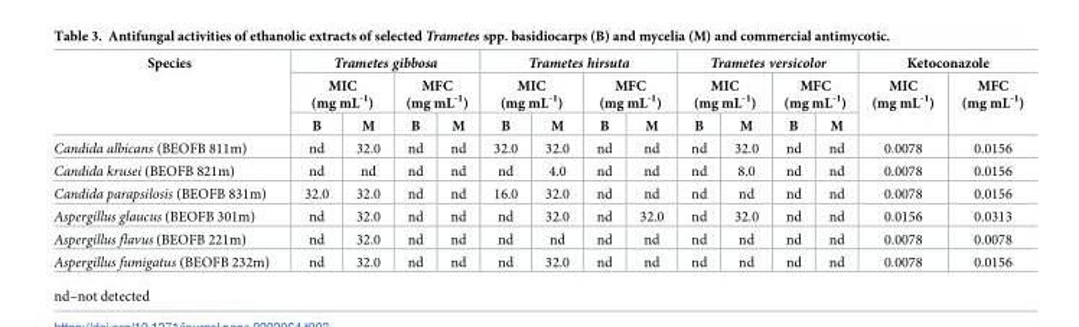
<table><thead><tr><td rowspan="3">Species</td><td colspan="4">Trametes gibbosa</td><td colspan="4">Trametes hirsuta</td><td colspan="4">Trametes versicolor</td><td colspan="2">Ketoconazole</td></tr><tr><td colspan="2">MIC (mg mL<sup>-1</sup>)</td><td colspan="2">MFC (mg mL<sup>-1</sup>)</td><td colspan="2">MIC (mg mL<sup>-1</sup>)</td><td colspan="2">MFC (mg mL<sup>-1</sup>)</td><td colspan="2">MIC (mg mL<sup>-1</sup>)</td><td colspan="2">MFC (mg mL<sup>-1</sup>)</td><td rowspan="2">MIC (mg mL<sup>-1</sup>)</td><td rowspan="2">MFC (mg mL<sup>-1</sup>)</td></tr><tr><td>B</td><td>M</td><td>B</td><td>M</td><td>B</td><td>M</td><td>B</td><td>M</td><td>B</td><td>M</td><td>B</td><td>M</td></tr></thead><tbody><tr><td>Candida albicans (BEOFB 811m)</td><td>nd</td><td>32.0</td><td>nd</td><td>nd</td><td>32.0</td><td>32.0</td><td>nd</td><td>nd</td><td>nd</td><td>32.0</td><td>nd</td><td>nd</td><td>0.0078</td><td>0.0156</td></tr><tr><td>Candida krusei (BEOFB 821m)</td><td>nd</td><td>nd</td><td>nd</td><td>nd</td><td>nd</td><td>4.0</td><td>nd</td><td>nd</td><td>nd</td><td>8.0</td><td>nd</td><td>nd</td><td>0.0078</td><td>0.0156</td></tr><tr><td>Candida parapsilosis (BEOFB 831m)</td><td>32.0</td><td>32.0</td><td>nd</td><td>nd</td><td>16.0</td><td>32.0</td><td>nd</td><td>nd</td><td>nd</td><td>nd</td><td>nd</td><td>nd</td><td>0.0078</td><td>0.0156</td></tr><tr><td>Aspergillus glaucus (BEOFB 301m)</td><td>nd</td><td>32.0</td><td>nd</td><td>nd</td><td>nd</td><td>32.0</td><td>nd</td><td>32.0</td><td>nd</td><td>32.0</td><td>nd</td><td>nd</td><td>0.0156</td><td>0.0313</td></tr><tr><td>Aspergillus flavus (BEOFB 221m)</td><td>nd</td><td>32.0</td><td>nd</td><td>nd</td><td>nd</td><td>nd</td><td>nd</td><td>nd</td><td>nd</td><td>nd</td><td>nd</td><td>nd</td><td>0.0078</td><td>0.0078</td></tr><tr><td>Aspergillus fumigatus (BEOFB 232m)</td><td>nd</td><td>32.0</td><td>nd</td><td>nd</td><td>nd</td><td>32.0</td><td>nd</td><td>nd</td><td>nd</td><td>nd</td><td>nd</td><td>nd</td><td>0.0078</td><td>0.0156</td></tr></tbody></table>